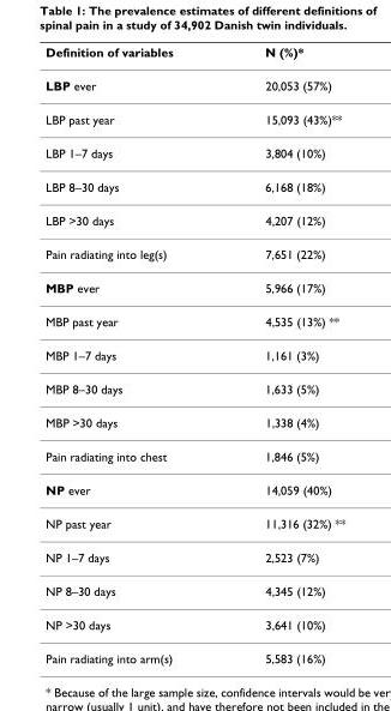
<table><thead><tr><td>Definition of variables</td><td>N (%)*</td></tr></thead><tbody><tr><td>LBP ever</td><td>20,053 (57%)</td></tr><tr><td>LBP past year</td><td>15,093 (43%)**</td></tr><tr><td>LBP 1–7 days</td><td>3,804 (10%)</td></tr><tr><td>LBP 8–30 days</td><td>6,168 (18%)</td></tr><tr><td>LBP &gt;30 days</td><td>4,207 (12%)</td></tr><tr><td>Pain radiating into leg(s)</td><td>7,651 (22%)</td></tr><tr><td>MBP ever</td><td>5,966 (17%)</td></tr><tr><td>MBP past year</td><td>4,535 (13%) **</td></tr><tr><td>MBP 1–7 days</td><td>1,161 (3%)</td></tr><tr><td>MBP 8–30 days</td><td>1,633 (5%)</td></tr><tr><td>MBP &gt;30 days</td><td>1,338 (4%)</td></tr><tr><td>Pain radiating into chest</td><td>1,846 (5%)</td></tr><tr><td>NP ever</td><td>14,059 (40%)</td></tr><tr><td>NP past year</td><td>11,316 (32%) **</td></tr><tr><td>NP 1–7 days</td><td>2,523 (7%)</td></tr><tr><td>NP 8–30 days</td><td>4,345 (12%)</td></tr><tr><td>NP &gt;30 days</td><td>3,641 (10%)</td></tr><tr><td>Pain radiating into arm(s)</td><td>5,583 (16%)</td></tr></tbody></table>